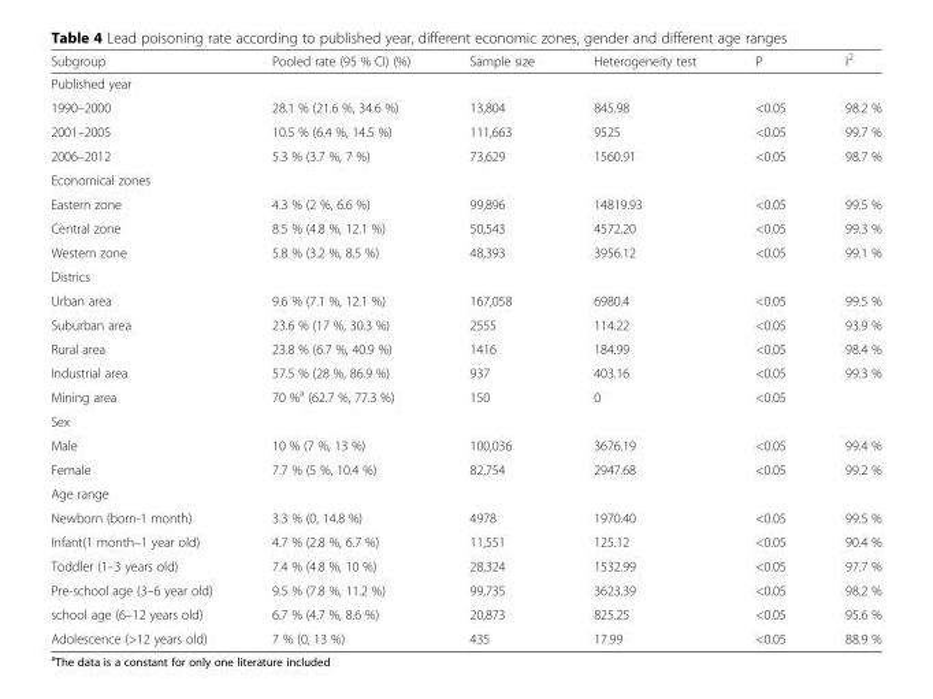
<table><thead><tr><td>Subgroup</td><td>Pooled rate (95 % CI) (%)</td><td>Sample size</td><td>Heterogeneity test</td><td>P</td><td>I<sup>2</sup></td></tr></thead><tbody><tr><td colspan="6">Published year</td></tr><tr><td>1990–2000</td><td>28.1 % (21.6 %, 34.6 %)</td><td>13,804</td><td>845.98</td><td>&lt;0.05</td><td>98.2 %</td></tr><tr><td>2001–2005</td><td>10.5 % (6.4 %, 14.5 %)</td><td>111,663</td><td>9525</td><td>&lt;0.05</td><td>99.7 %</td></tr><tr><td>2006–2012</td><td>5.3 % (3.7 %, 7 %)</td><td>73,629</td><td>1560.91</td><td>&lt;0.05</td><td>98.7 %</td></tr><tr><td colspan="6">Economical zones</td></tr><tr><td>Eastern zone</td><td>4.3 % (2 %, 6.6 %)</td><td>99,896</td><td>14819.93</td><td>&lt;0.05</td><td>99.5 %</td></tr><tr><td>Central zone</td><td>8.5 % (4.8 %, 12.1 %)</td><td>50,543</td><td>4572.20</td><td>&lt;0.05</td><td>99.3 %</td></tr><tr><td>Western zone</td><td>5.8 % (3.2 %, 8.5 %)</td><td>48,393</td><td>3956.12</td><td>&lt;0.05</td><td>99.1 %</td></tr><tr><td colspan="6">Districs</td></tr><tr><td>Urban area</td><td>9.6 % (7.1 %, 12.1 %)</td><td>167,058</td><td>6980.4</td><td>&lt;0.05</td><td>99.5 %</td></tr><tr><td>Suburban area</td><td>23.6 % (17 %, 30.3 %)</td><td>2555</td><td>114.22</td><td>&lt;0.05</td><td>93.9 %</td></tr><tr><td>Rural area</td><td>23.8 % (6.7 %, 40.9 %)</td><td>1416</td><td>184.99</td><td>&lt;0.05</td><td>98.4 %</td></tr><tr><td>Industrial area</td><td>57.5 % (28 %, 86.9 %)</td><td>937</td><td>403.16</td><td>&lt;0.05</td><td>99.3 %</td></tr><tr><td>Mining area</td><td>70 %<sup>a</sup> (62.7 %, 77.3 %)</td><td>150</td><td>0</td><td>&lt;0.05</td><td></td></tr><tr><td colspan="6">Sex</td></tr><tr><td>Male</td><td>10 % (7 %, 13 %)</td><td>100,036</td><td>3676.19</td><td>&lt;0.05</td><td>99.4 %</td></tr><tr><td>Female</td><td>7.7 % (5 %, 10.4 %)</td><td>82,754</td><td>2947.68</td><td>&lt;0.05</td><td>99.2 %</td></tr><tr><td colspan="6">Age range</td></tr><tr><td>Newborn (born-1 month)</td><td>3.3 % (0, 14.8 %)</td><td>4978</td><td>1970.40</td><td>&lt;0.05</td><td>99.5 %</td></tr><tr><td>Infant(1 month–1 year old)</td><td>4.7 % (2.8 %, 6.7 %)</td><td>11,551</td><td>125.12</td><td>&lt;0.05</td><td>90.4 %</td></tr><tr><td>Toddler (1–3 years old)</td><td>7.4 % (4.8 %, 10 %)</td><td>28,324</td><td>1532.99</td><td>&lt;0.05</td><td>97.7 %</td></tr><tr><td>Pre-school age (3–6 year old)</td><td>9.5 % (7.8 %, 11.2 %)</td><td>99,735</td><td>3623.39</td><td>&lt;0.05</td><td>98.2 %</td></tr><tr><td>school age (6–12 years old)</td><td>6.7 % (4.7 %, 8.6 %)</td><td>20,873</td><td>825.25</td><td>&lt;0.05</td><td>95.6 %</td></tr><tr><td>Adolescence (&gt;12 years old)</td><td>7 % (0, 13 %)</td><td>435</td><td>17.99</td><td>&lt;0.05</td><td>88.9 %</td></tr></tbody></table>